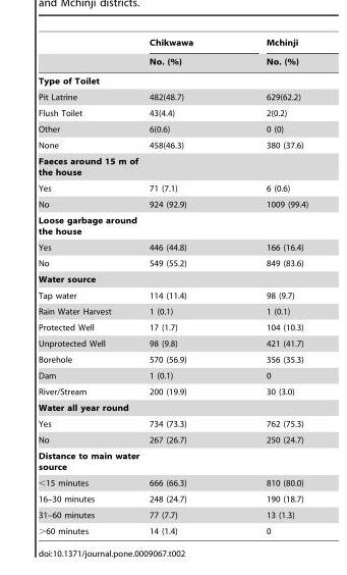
<table><thead><tr><td rowspan="2"></td><td rowspan="2">Chikwawa No. (%)</td><td rowspan="2">Mchinji No. (%)</td></tr><tr></tr></thead><tbody><tr><td colspan="3">Type of Toilet</td></tr><tr><td>Pit Latrine</td><td>482(48.7)</td><td>629(62.2)</td></tr><tr><td>Flush Toilet</td><td>43(4.4)</td><td>2(0.2)</td></tr><tr><td>Other</td><td>6(0.6)</td><td>0 (0)</td></tr><tr><td>None</td><td>458(46.3)</td><td>380 (37.6)</td></tr><tr><td colspan="3">Faeces around 15 m of the house</td></tr><tr><td>Yes</td><td>71 (7.1)</td><td>6 (0.6)</td></tr><tr><td>No</td><td>924 (92.9)</td><td>1009 (99.4)</td></tr><tr><td colspan="3">Loose garbage around the house</td></tr><tr><td>Yes</td><td>446 (44.8)</td><td>166 (16.4)</td></tr><tr><td>No</td><td>549 (55.2)</td><td>849 (83.6)</td></tr><tr><td colspan="3">Water source</td></tr><tr><td>Tap water</td><td>114 (11.4)</td><td>98 (9.7)</td></tr><tr><td>Rain Water Harvest</td><td>1 (0.1)</td><td>1 (0.1)</td></tr><tr><td>Protected Well</td><td>17 (1.7)</td><td>104 (10.3)</td></tr><tr><td>Unprotected Well</td><td>98 (9.8)</td><td>421 (41.7)</td></tr><tr><td>Borehole</td><td>570 (56.9)</td><td>356 (35.3)</td></tr><tr><td>Dam</td><td>1 (0.1)</td><td>0</td></tr><tr><td>River/Stream</td><td>200 (19.9)</td><td>30 (3.0)</td></tr><tr><td colspan="3">Water all year round</td></tr><tr><td>Yes</td><td>734 (73.3)</td><td>762 (75.3)</td></tr><tr><td>No</td><td>267 (26.7)</td><td>250 (24.7)</td></tr><tr><td colspan="3">Distance to main water source</td></tr><tr><td>&lt;15 minutes</td><td>666 (66.3)</td><td>810 (80.0)</td></tr><tr><td>16–30 minutes</td><td>248 (24.7)</td><td>190 (18.7)</td></tr><tr><td>31–60 minutes</td><td>77 (7.7)</td><td>13 (1.3)</td></tr><tr><td>&gt;60 minutes</td><td>14 (1.4)</td><td>0</td></tr></tbody></table>